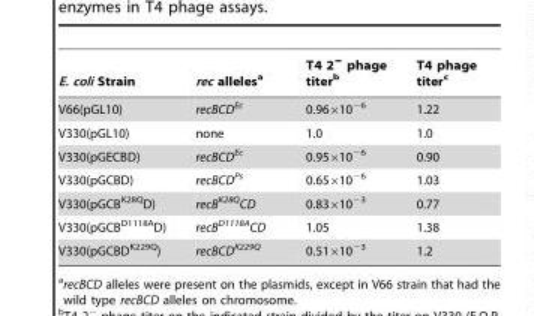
<table><thead><tr><td>E. coli Strain</td><td>rec alleles<sup>a</sup></td><td>T4 2<sup>−</sup> phage titer<sup>b</sup></td><td>T4 phage titer<sup>c</sup></td></tr></thead><tbody><tr><td>V66(pGL10)</td><td>recBCD<sup>Ec</sup></td><td>0.96×10<sup>−6</sup></td><td>1.22</td></tr><tr><td>V330(pGL10)</td><td>none</td><td>1.0</td><td>1.0</td></tr><tr><td>V330(pGECBD)</td><td>recBCD<sup>Ec</sup></td><td>0.95×10<sup>−6</sup></td><td>0.90</td></tr><tr><td>V330(pGCBD)</td><td>recBCD<sup>Ps</sup></td><td>0.65×10<sup>−6</sup></td><td>1.03</td></tr><tr><td>V330(pGCB<sup>K28Q</sup>D)</td><td>recB<sup>K28Q</sup>CD</td><td>0.83×10<sup>−3</sup></td><td>0.77</td></tr><tr><td>V330(pGCB<sup>D1118A</sup>D)</td><td>recB<sup>D1118A</sup>CD</td><td>1.05</td><td>1.38</td></tr><tr><td>V330(pGCBD<sup>K229Q</sup>)</td><td>recBCD<sup>K229Q</sup></td><td>0.51×10<sup>−3</sup></td><td>1.2</td></tr></tbody></table>